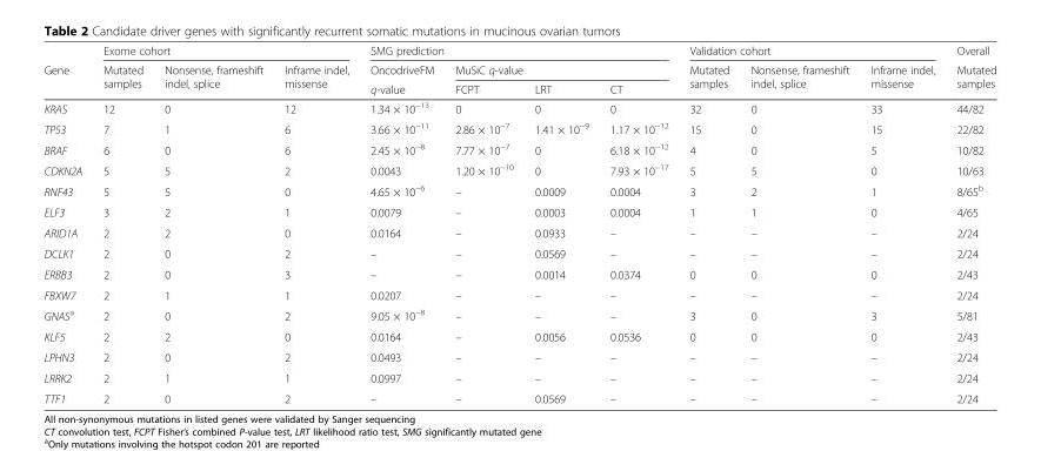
<table><thead><tr><td rowspan="3">Gene</td><td colspan="3">Exome cohort</td><td colspan="4">SMG prediction</td><td colspan="3">Validation cohort</td><td rowspan="3">Overall Mutated samples</td></tr><tr><td rowspan="2">Mutated samples</td><td rowspan="2">Nonsense, frameshift indel, splice</td><td rowspan="2">Inframe indel, missense</td><td rowspan="2">OncodriveFM q-value</td><td colspan="3">MuSiC q-value</td><td rowspan="2">Mutated samples</td><td rowspan="2">Nonsense, frameshift indel, splice</td><td rowspan="2">Inframe indel, missense</td></tr><tr><td>FCPT</td><td>LRT</td><td>CT</td></tr></thead><tbody><tr><td>KRAS</td><td>12</td><td>0</td><td>12</td><td>1.34 × 10<sup>−13</sup></td><td>0</td><td>0</td><td>0</td><td>32</td><td>0</td><td>33</td><td>44/82</td></tr><tr><td>TP53</td><td>7</td><td>1</td><td>6</td><td>3.66 × 10<sup>−11</sup></td><td>2.86 × 10<sup>−7</sup></td><td>1.41 × 10<sup>−9</sup></td><td>1.17 × 10<sup>−12</sup></td><td>15</td><td>0</td><td>15</td><td>22/82</td></tr><tr><td>BRAF</td><td>6</td><td>0</td><td>6</td><td>2.45 × 10<sup>−8</sup></td><td>7.77 × 10<sup>−7</sup></td><td>0</td><td>6.18 × 10<sup>−12</sup></td><td>4</td><td>0</td><td>5</td><td>10/82</td></tr><tr><td>CDKN2A</td><td>5</td><td>5</td><td>2</td><td>0.0043</td><td>1.20 × 10<sup>−10</sup></td><td>0</td><td>7.93 × 10<sup>−17</sup></td><td>5</td><td>5</td><td>0</td><td>10/63</td></tr><tr><td>RNF43</td><td>5</td><td>5</td><td>0</td><td>4.65 × 10<sup>−6</sup></td><td>–</td><td>0.0009</td><td>0.0004</td><td>3</td><td>2</td><td>1</td><td>8/65<sup>b</sup></td></tr><tr><td>ELF3</td><td>3</td><td>2</td><td>1</td><td>0.0079</td><td>–</td><td>0.0003</td><td>0.0004</td><td>1</td><td>1</td><td>0</td><td>4/65</td></tr><tr><td>ARID1A</td><td>2</td><td>2</td><td>0</td><td>0.0164</td><td>–</td><td>0.0933</td><td>–</td><td>–</td><td>–</td><td>–</td><td>2/24</td></tr><tr><td>DCLK1</td><td>2</td><td>0</td><td>2</td><td>–</td><td>–</td><td>0.0569</td><td>–</td><td>–</td><td>–</td><td>–</td><td>2/24</td></tr><tr><td>ERBB3</td><td>2</td><td>0</td><td>3</td><td>–</td><td>–</td><td>0.0014</td><td>0.0374</td><td>0</td><td>0</td><td>0</td><td>2/43</td></tr><tr><td>FBXW7</td><td>2</td><td>1</td><td>1</td><td>0.0207</td><td>–</td><td>–</td><td>–</td><td>–</td><td>–</td><td>–</td><td>2/24</td></tr><tr><td>GNAS<sup>a</sup></td><td>2</td><td>0</td><td>2</td><td>9.05 × 10<sup>−8</sup></td><td>–</td><td>–</td><td>–</td><td>3</td><td>0</td><td>3</td><td>5/81</td></tr><tr><td>KLF5</td><td>2</td><td>2</td><td>0</td><td>0.0164</td><td>–</td><td>0.0056</td><td>0.0536</td><td>0</td><td>0</td><td>0</td><td>2/43</td></tr><tr><td>LPHN3</td><td>2</td><td>0</td><td>2</td><td>0.0493</td><td>–</td><td>–</td><td>–</td><td>–</td><td>–</td><td>–</td><td>2/24</td></tr><tr><td>LRRK2</td><td>2</td><td>1</td><td>1</td><td>0.0997</td><td>–</td><td>–</td><td>–</td><td>–</td><td>–</td><td>–</td><td>2/24</td></tr><tr><td>TTF1</td><td>2</td><td>0</td><td>2</td><td>–</td><td>–</td><td>0.0569</td><td>–</td><td>–</td><td>–</td><td>–</td><td>2/24</td></tr></tbody></table>